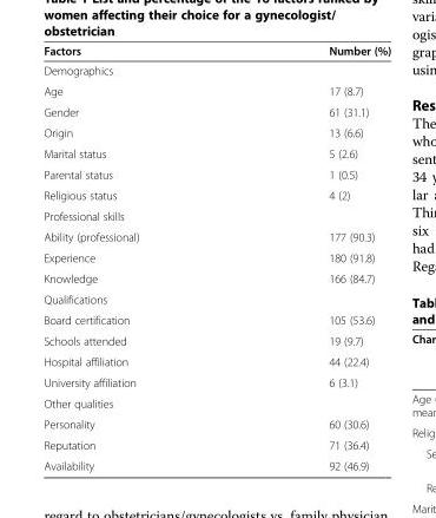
<table><thead><tr><td>Factors</td><td>Number (%)</td></tr></thead><tbody><tr><td colspan="2">Demographics</td></tr><tr><td>Age</td><td>17 (8.7)</td></tr><tr><td>Gender</td><td>61 (31.1)</td></tr><tr><td>Origin</td><td>13 (6.6)</td></tr><tr><td>Marital status</td><td>5 (2.6)</td></tr><tr><td>Parental status</td><td>1 (0.5)</td></tr><tr><td>Religious status</td><td>4 (2)</td></tr><tr><td colspan="2">Professional skills</td></tr><tr><td>Ability (professional)</td><td>177 (90.3)</td></tr><tr><td>Experience</td><td>180 (91.8)</td></tr><tr><td>Knowledge</td><td>166 (84.7)</td></tr><tr><td colspan="2">Qualifications</td></tr><tr><td>Board certification</td><td>105 (53.6)</td></tr><tr><td>Schools attended</td><td>19 (9.7)</td></tr><tr><td>Hospital affiliation</td><td>44 (22.4)</td></tr><tr><td>University affiliation</td><td>6 (3.1)</td></tr><tr><td colspan="2">Other qualities</td></tr><tr><td>Personality</td><td>60 (30.6)</td></tr><tr><td>Reputation</td><td>71 (36.4)</td></tr><tr><td>Availability</td><td>92 (46.9)</td></tr></tbody></table>